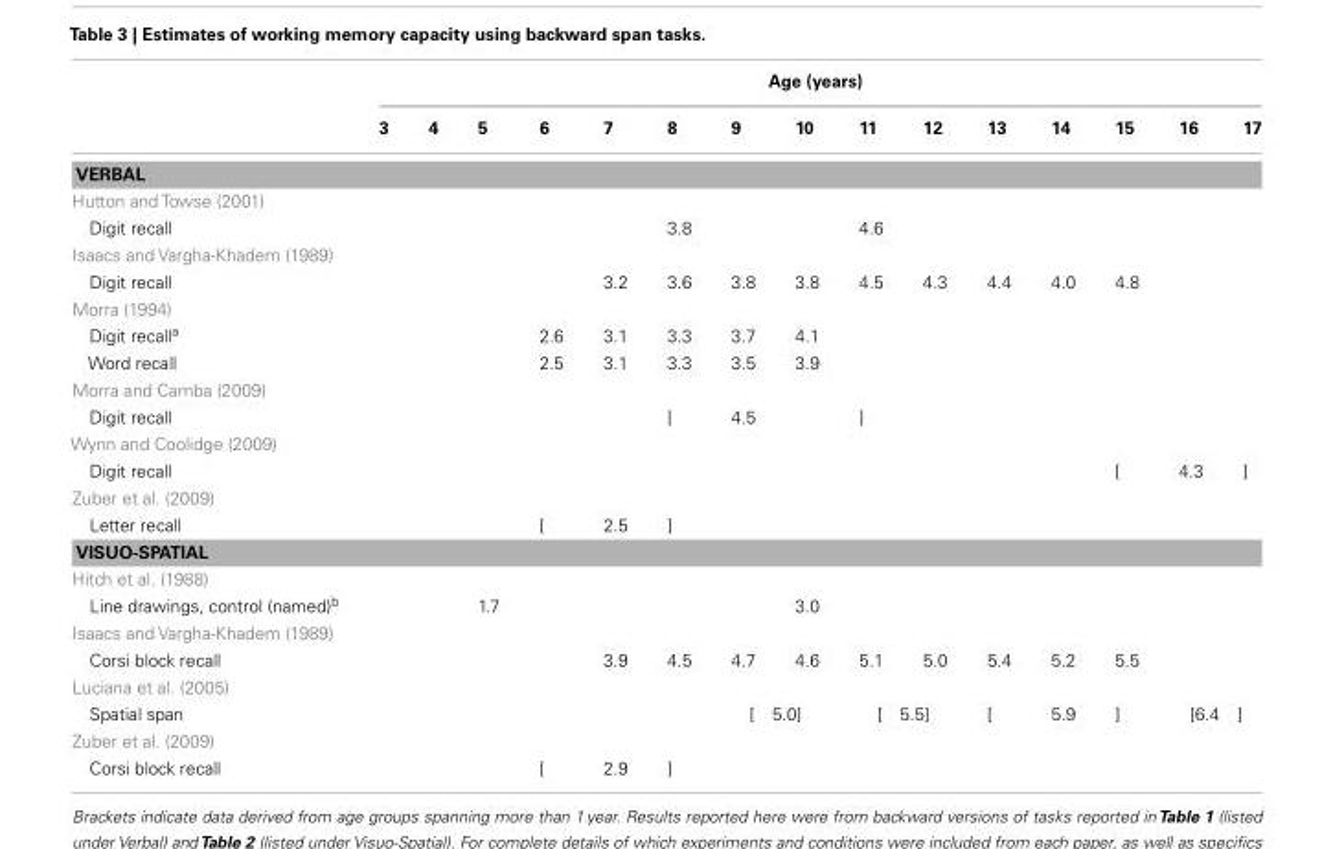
<table><thead><tr><td rowspan="2"></td><td colspan="15">Age (years)</td></tr><tr><td>3</td><td>4</td><td>5</td><td>6</td><td>7</td><td>8</td><td>9</td><td>10</td><td>11</td><td>12</td><td>13</td><td>14</td><td>15</td><td>16</td><td>17</td></tr></thead><tbody><tr><td colspan="16">VERBAL</td></tr><tr><td colspan="16">Hutton and Towse (2001)</td></tr><tr><td>Digit recall</td><td></td><td></td><td></td><td></td><td></td><td>3.8</td><td></td><td></td><td>4.6</td><td></td><td></td><td></td><td></td><td></td><td></td></tr><tr><td colspan="16">Isaacs and Vargha-Khadem (1989)</td></tr><tr><td>Digit recall</td><td></td><td></td><td></td><td></td><td>3.2</td><td>3.6</td><td>3.8</td><td>3.8</td><td>4.5</td><td>4.3</td><td>4.4</td><td>4.0</td><td>4.8</td><td></td><td></td></tr><tr><td colspan="16">Morra (1994)</td></tr><tr><td>Digit recall<sup>a</sup></td><td></td><td></td><td></td><td>2.6</td><td>3.1</td><td>3.3</td><td>3.7</td><td>4.1</td><td></td><td></td><td></td><td></td><td></td><td></td><td></td></tr><tr><td>Word recall</td><td></td><td></td><td></td><td>2.5</td><td>3.1</td><td>3.3</td><td>3.5</td><td>3.9</td><td></td><td></td><td></td><td></td><td></td><td></td><td></td></tr><tr><td colspan="16">Morra and Camba (2009)</td></tr><tr><td>Digit recall</td><td></td><td></td><td></td><td></td><td></td><td>[</td><td>4.5</td><td></td><td>]</td><td></td><td></td><td></td><td></td><td></td><td></td></tr><tr><td colspan="16">Wynn and Coolidge (2009)</td></tr><tr><td>Digit recall</td><td></td><td></td><td></td><td></td><td></td><td></td><td></td><td></td><td></td><td></td><td></td><td></td><td>[</td><td>4.3</td><td>]</td></tr><tr><td colspan="16">Zuber et al. (2009)</td></tr><tr><td>Letter recall</td><td></td><td></td><td></td><td>[</td><td>2.5</td><td>]</td><td></td><td></td><td></td><td></td><td></td><td></td><td></td><td></td><td></td></tr><tr><td colspan="16">VISUO-SPATIAL</td></tr><tr><td colspan="16">Hitch et al. (1988)</td></tr><tr><td>Line drawings, control (named)<sup>b</sup></td><td></td><td></td><td>1.7</td><td></td><td></td><td></td><td></td><td>3.0</td><td></td><td></td><td></td><td></td><td></td><td></td><td></td></tr><tr><td colspan="16">Isaacs and Vargha-Khadem (1989)</td></tr><tr><td>Corsi block recall</td><td></td><td></td><td></td><td></td><td>3.9</td><td>4.5</td><td>4.7</td><td>4.6</td><td>5.1</td><td>5.0</td><td>5.4</td><td>5.2</td><td>5.5</td><td></td><td></td></tr><tr><td colspan="16">Luciana et al. (2005)</td></tr><tr><td>Spatial span</td><td></td><td></td><td></td><td></td><td></td><td></td><td colspan="2">[ 5.0]</td><td colspan="2">[ 5.5]</td><td>[</td><td>5.9</td><td>]</td><td colspan="2">[6.4 ]</td></tr><tr><td colspan="16">Zuber et al. (2009)</td></tr><tr><td>Corsi block recall</td><td></td><td></td><td></td><td>[</td><td>2.9</td><td>]</td><td></td><td></td><td></td><td></td><td></td><td></td><td></td><td></td><td></td></tr></tbody></table>